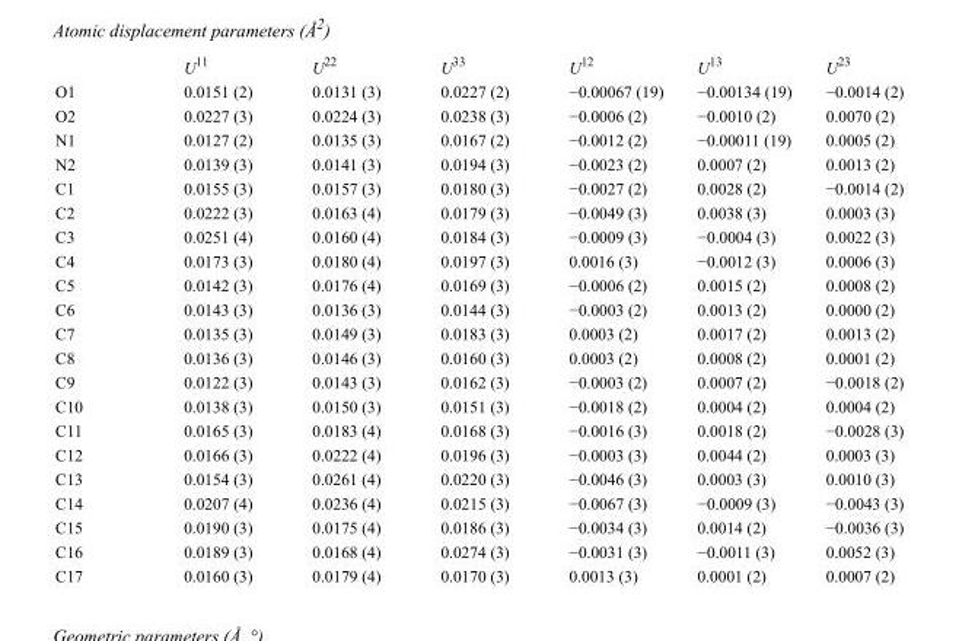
<table><thead><tr><td></td><td>U<sup>11</sup></td><td>U<sup>22</sup></td><td>U<sup>33</sup></td><td>U<sup>12</sup></td><td>U<sup>13</sup></td><td>U<sup>23</sup></td></tr></thead><tbody><tr><td>O1</td><td>0.0151 (2)</td><td>0.0131 (3)</td><td>0.0227 (2)</td><td>−0.00067 (19)</td><td>−0.00134 (19)</td><td>−0.0014 (2)</td></tr><tr><td>O2</td><td>0.0227 (3)</td><td>0.0224 (3)</td><td>0.0238 (3)</td><td>−0.0006 (2)</td><td>−0.0010 (2)</td><td>0.0070 (2)</td></tr><tr><td>N1</td><td>0.0127 (2)</td><td>0.0135 (3)</td><td>0.0167 (2)</td><td>−0.0012 (2)</td><td>−0.00011 (19)</td><td>0.0005 (2)</td></tr><tr><td>N2</td><td>0.0139 (3)</td><td>0.0141 (3)</td><td>0.0194 (3)</td><td>−0.0023 (2)</td><td>0.0007 (2)</td><td>0.0013 (2)</td></tr><tr><td>C1</td><td>0.0155 (3)</td><td>0.0157 (3)</td><td>0.0180 (3)</td><td>−0.0027 (2)</td><td>0.0028 (2)</td><td>−0.0014 (2)</td></tr><tr><td>C2</td><td>0.0222 (3)</td><td>0.0163 (4)</td><td>0.0179 (3)</td><td>−0.0049 (3)</td><td>0.0038 (3)</td><td>0.0003 (3)</td></tr><tr><td>C3</td><td>0.0251 (4)</td><td>0.0160 (4)</td><td>0.0184 (3)</td><td>−0.0009 (3)</td><td>−0.0004 (3)</td><td>0.0022 (3)</td></tr><tr><td>C4</td><td>0.0173 (3)</td><td>0.0180 (4)</td><td>0.0197 (3)</td><td>0.0016 (3)</td><td>−0.0012 (3)</td><td>0.0006 (3)</td></tr><tr><td>C5</td><td>0.0142 (3)</td><td>0.0176 (4)</td><td>0.0169 (3)</td><td>−0.0006 (2)</td><td>0.0015 (2)</td><td>0.0008 (2)</td></tr><tr><td>C6</td><td>0.0143 (3)</td><td>0.0136 (3)</td><td>0.0144 (3)</td><td>−0.0003 (2)</td><td>0.0013 (2)</td><td>0.0000 (2)</td></tr><tr><td>C7</td><td>0.0135 (3)</td><td>0.0149 (3)</td><td>0.0183 (3)</td><td>0.0003 (2)</td><td>0.0017 (2)</td><td>0.0013 (2)</td></tr><tr><td>C8</td><td>0.0136 (3)</td><td>0.0146 (3)</td><td>0.0160 (3)</td><td>0.0003 (2)</td><td>0.0008 (2)</td><td>0.0001 (2)</td></tr><tr><td>C9</td><td>0.0122 (3)</td><td>0.0143 (3)</td><td>0.0162 (3)</td><td>−0.0003 (2)</td><td>0.0007 (2)</td><td>−0.0018 (2)</td></tr><tr><td>C10</td><td>0.0138 (3)</td><td>0.0150 (3)</td><td>0.0151 (3)</td><td>−0.0018 (2)</td><td>0.0004 (2)</td><td>0.0004 (2)</td></tr><tr><td>C11</td><td>0.0165 (3)</td><td>0.0183 (4)</td><td>0.0168 (3)</td><td>−0.0016 (3)</td><td>0.0018 (2)</td><td>−0.0028 (3)</td></tr><tr><td>C12</td><td>0.0166 (3)</td><td>0.0222 (4)</td><td>0.0196 (3)</td><td>−0.0003 (3)</td><td>0.0044 (2)</td><td>0.0003 (3)</td></tr><tr><td>C13</td><td>0.0154 (3)</td><td>0.0261 (4)</td><td>0.0220 (3)</td><td>−0.0046 (3)</td><td>0.0003 (3)</td><td>0.0010 (3)</td></tr><tr><td>C14</td><td>0.0207 (4)</td><td>0.0236 (4)</td><td>0.0215 (3)</td><td>−0.0067 (3)</td><td>−0.0009 (3)</td><td>−0.0043 (3)</td></tr><tr><td>C15</td><td>0.0190 (3)</td><td>0.0175 (4)</td><td>0.0186 (3)</td><td>−0.0034 (3)</td><td>0.0014 (2)</td><td>−0.0036 (3)</td></tr><tr><td>C16</td><td>0.0189 (3)</td><td>0.0168 (4)</td><td>0.0274 (3)</td><td>−0.0031 (3)</td><td>−0.0011 (3)</td><td>0.0052 (3)</td></tr><tr><td>C17</td><td>0.0160 (3)</td><td>0.0179 (4)</td><td>0.0170 (3)</td><td>0.0013 (3)</td><td>0.0001 (2)</td><td>0.0007 (2)</td></tr></tbody></table>